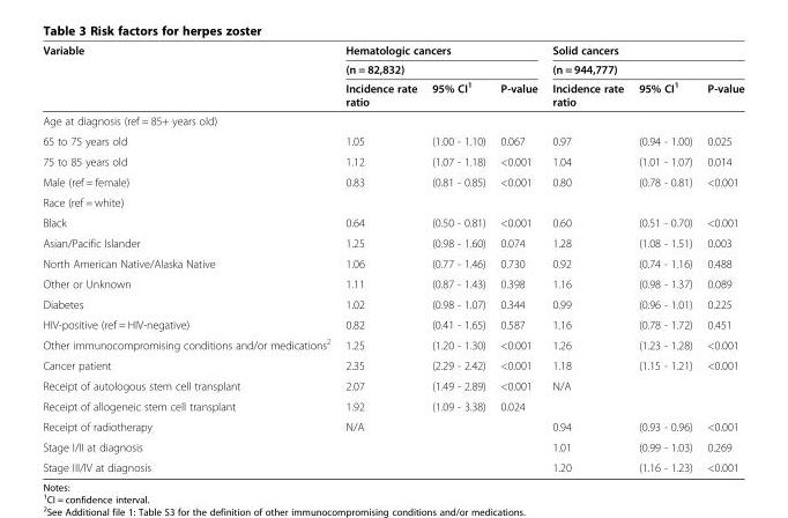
<table><thead><tr><td rowspan="3">Variable</td><td rowspan="2" colspan="3">Hematologic cancers (n = 82,832)</td><td rowspan="2" colspan="3">Solid cancers (n = 944,777)</td></tr><tr></tr><tr><td>Incidence rate ratio</td><td>95% CI<sup>1</sup></td><td>P-value</td><td>Incidence rate ratio</td><td>95% CI<sup>1</sup></td><td>P-value</td></tr></thead><tbody><tr><td colspan="7">Age at diagnosis (ref = 85+ years old)</td></tr><tr><td>65 to 75 years old</td><td>1.05</td><td>(1.00 - 1.10)</td><td>0.067</td><td>0.97</td><td>(0.94 - 1.00)</td><td>0.025</td></tr><tr><td>75 to 85 years old</td><td>1.12</td><td>(1.07 - 1.18)</td><td>&lt;0.001</td><td>1.04</td><td>(1.01 - 1.07)</td><td>0.014</td></tr><tr><td>Male (ref = female)</td><td>0.83</td><td>(0.81 - 0.85)</td><td>&lt;0.001</td><td>0.80</td><td>(0.78 - 0.81)</td><td>&lt;0.001</td></tr><tr><td colspan="7">Race (ref = white)</td></tr><tr><td>Black</td><td>0.64</td><td>(0.50 - 0.81)</td><td>&lt;0.001</td><td>0.60</td><td>(0.51 - 0.70)</td><td>&lt;0.001</td></tr><tr><td>Asian/Pacific Islander</td><td>1.25</td><td>(0.98 - 1.60)</td><td>0.074</td><td>1.28</td><td>(1.08 - 1.51)</td><td>0.003</td></tr><tr><td>North American Native/Alaska Native</td><td>1.06</td><td>(0.77 - 1.46)</td><td>0.730</td><td>0.92</td><td>(0.74 - 1.16)</td><td>0.488</td></tr><tr><td>Other or Unknown</td><td>1.11</td><td>(0.87 - 1.43)</td><td>0.398</td><td>1.16</td><td>(0.98 - 1.37)</td><td>0.089</td></tr><tr><td>Diabetes</td><td>1.02</td><td>(0.98 - 1.07)</td><td>0.344</td><td>0.99</td><td>(0.96 - 1.01)</td><td>0.225</td></tr><tr><td>HIV-positive (ref = HIV-negative)</td><td>0.82</td><td>(0.41 - 1.65)</td><td>0.587</td><td>1.16</td><td>(0.78 - 1.72)</td><td>0.451</td></tr><tr><td>Other immunocompromising conditions and/or medications<sup>2</sup></td><td>1.25</td><td>(1.20 - 1.30)</td><td>&lt;0.001</td><td>1.26</td><td>(1.23 - 1.28)</td><td>&lt;0.001</td></tr><tr><td>Cancer patient</td><td>2.35</td><td>(2.29 - 2.42)</td><td>&lt;0.001</td><td>1.18</td><td>(1.15 - 1.21)</td><td>&lt;0.001</td></tr><tr><td>Receipt of autologous stem cell transplant</td><td>2.07</td><td>(1.49 - 2.89)</td><td>&lt;0.001</td><td rowspan="2" colspan="3">N/A</td></tr><tr><td>Receipt of allogeneic stem cell transplant</td><td>1.92</td><td>(1.09 - 3.38)</td><td>0.024</td></tr><tr><td>Receipt of radiotherapy</td><td rowspan="3" colspan="3">N/A</td><td>0.94</td><td>(0.93 - 0.96)</td><td>&lt;0.001</td></tr><tr><td>Stage I/II at diagnosis</td><td>1.01</td><td>(0.99 - 1.03)</td><td>0.269</td></tr><tr><td>Stage III/IV at diagnosis</td><td>1.20</td><td>(1.16 - 1.23)</td><td>&lt;0.001</td></tr></tbody></table>